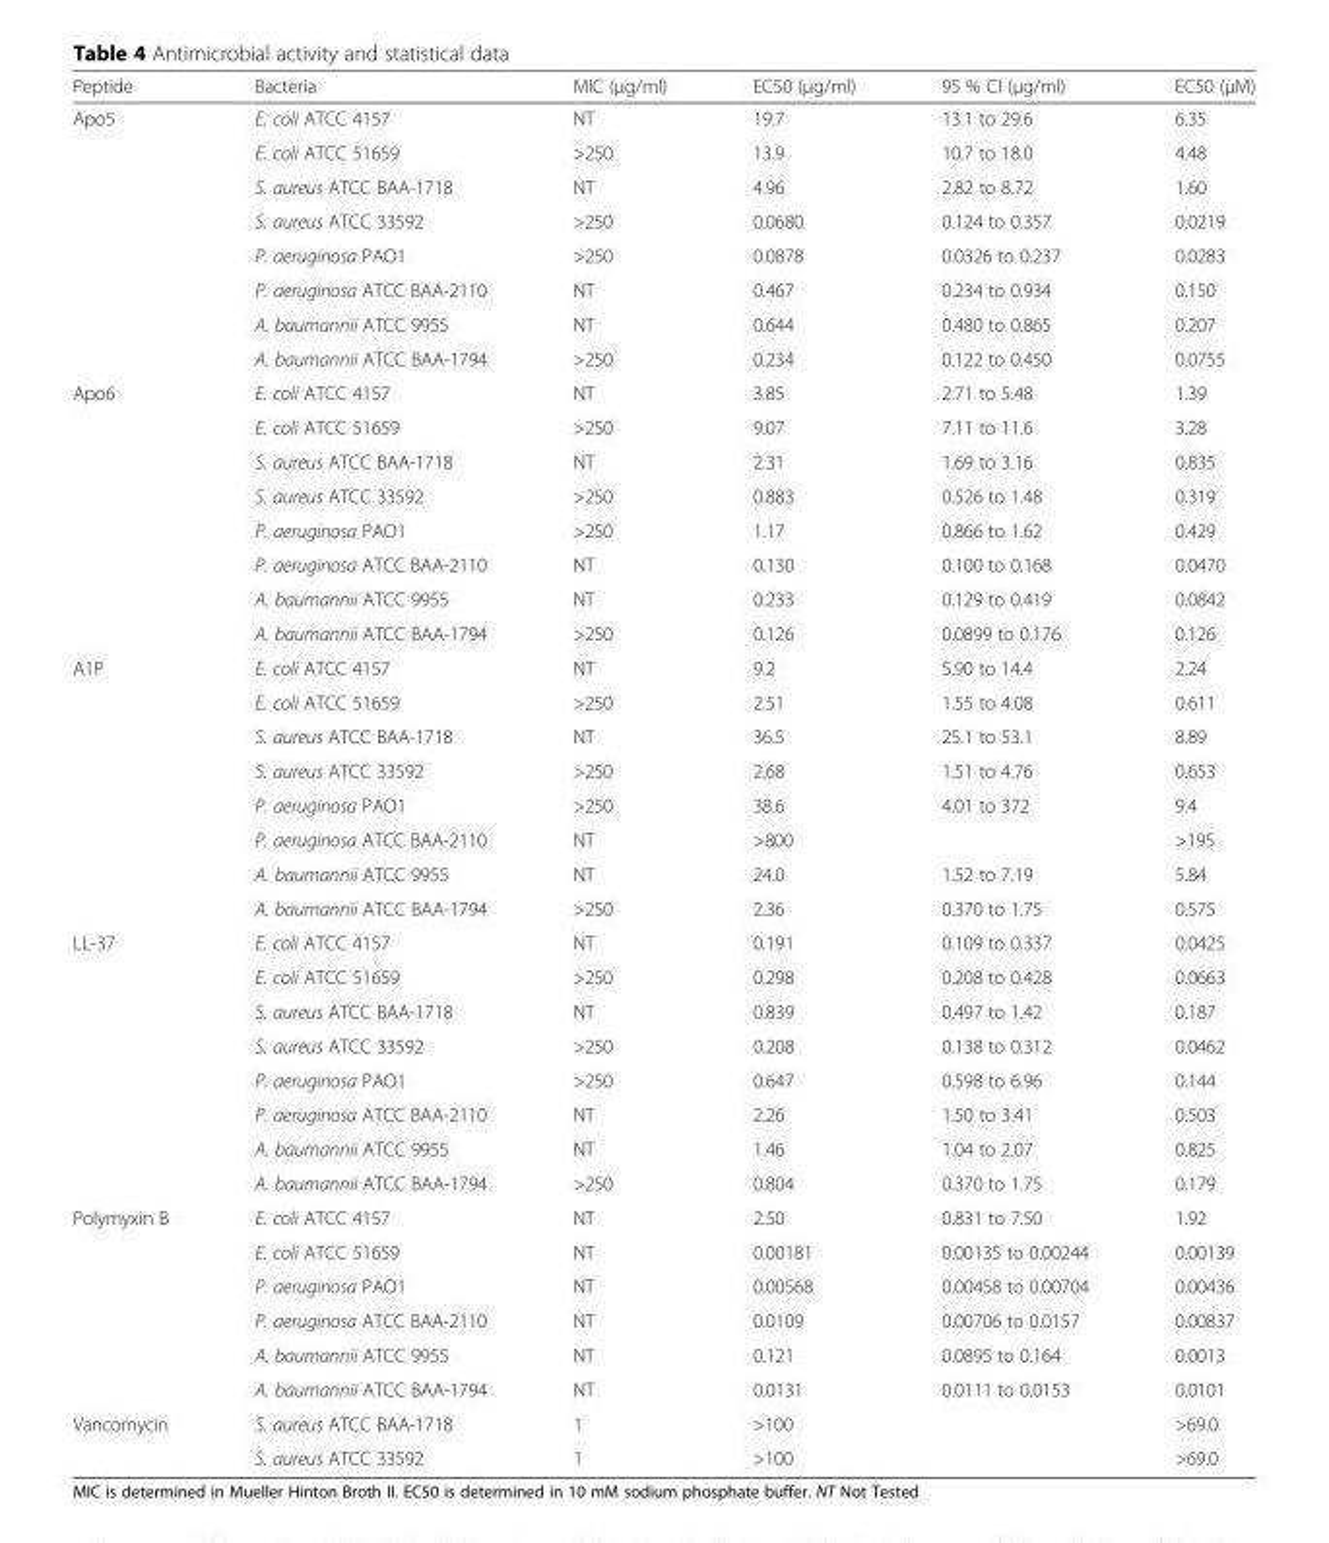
<table><thead><tr><td>Peptide</td><td>Bacteria</td><td>MIC (μg/ml)</td><td>EC50 (μg/ml)</td><td>95 % CI (μg/ml)</td><td>EC50 (μM)</td></tr></thead><tbody><tr><td rowspan="8">Apo5</td><td>E. coli ATCC 4157</td><td>NT</td><td>19.7</td><td>13.1 to 29.6</td><td>6.35</td></tr><tr><td>E. coli ATCC 51659</td><td>&gt;250</td><td>13.9</td><td>10.7 to 18.0</td><td>4.48</td></tr><tr><td>S. aureus ATCC BAA-1718</td><td>NT</td><td>4.96</td><td>2.82 to 8.72</td><td>1.60</td></tr><tr><td>S. aureus ATCC 33592</td><td>&gt;250</td><td>0.0680</td><td>0.124 to 0.357</td><td>0.0219</td></tr><tr><td>P. aeruginosa PAO1</td><td>&gt;250</td><td>0.0878</td><td>0.0326 to 0.237</td><td>0.0283</td></tr><tr><td>P. aeruginosa ATCC BAA-2110</td><td>NT</td><td>0.467</td><td>0.234 to 0.934</td><td>0.150</td></tr><tr><td>A. baumannii ATCC 9955</td><td>NT</td><td>0.644</td><td>0.480 to 0.865</td><td>0.207</td></tr><tr><td>A. baumannii ATCC BAA-1794</td><td>&gt;250</td><td>0.234</td><td>0.122 to 0.450</td><td>0.0755</td></tr><tr><td rowspan="8">Apo6</td><td>E. coli ATCC 4157</td><td>NT</td><td>3.85</td><td>2.71 to 5.48</td><td>1.39</td></tr><tr><td>E. coli ATCC 51659</td><td>&gt;250</td><td>9.07</td><td>7.11 to 11.6</td><td>3.28</td></tr><tr><td>S. aureus ATCC BAA-1718</td><td>NT</td><td>2.31</td><td>1.69 to 3.16</td><td>0.835</td></tr><tr><td>S. aureus ATCC 33592</td><td>&gt;250</td><td>0.883</td><td>0.526 to 1.48</td><td>0.319</td></tr><tr><td>P. aeruginosa PAO1</td><td>&gt;250</td><td>1.17</td><td>0.866 to 1.62</td><td>0.429</td></tr><tr><td>P. aeruginosa ATCC BAA-2110</td><td>NT</td><td>0.130</td><td>0.100 to 0.168</td><td>0.0470</td></tr><tr><td>A. baumannii ATCC 9955</td><td>NT</td><td>0.233</td><td>0.129 to 0.419</td><td>0.0842</td></tr><tr><td>A. baumannii ATCC BAA-1794</td><td>&gt;250</td><td>0.126</td><td>0.0899 to 0.176</td><td>0.126</td></tr><tr><td rowspan="8">A1P</td><td>E. coli ATCC 4157</td><td>NT</td><td>9.2</td><td>5.90 to 14.4</td><td>2.24</td></tr><tr><td>E. coli ATCC 51659</td><td>&gt;250</td><td>2.51</td><td>1.55 to 4.08</td><td>0.611</td></tr><tr><td>S. aureus ATCC BAA-1718</td><td>NT</td><td>36.5</td><td>25.1 to 53.1</td><td>8.89</td></tr><tr><td>S. aureus ATCC 33592</td><td>&gt;250</td><td>2.68</td><td>1.51 to 4.76</td><td>0.653</td></tr><tr><td>P. aeruginosa PAO1</td><td>&gt;250</td><td>38.6</td><td>4.01 to 372</td><td>9.4</td></tr><tr><td>P. aeruginosa ATCC BAA-2110</td><td>NT</td><td>&gt;800</td><td></td><td>&gt;195</td></tr><tr><td>A. baumannii ATCC 9955</td><td>NT</td><td>24.0</td><td>1.52 to 7.19</td><td>5.84</td></tr><tr><td>A. baumannii ATCC BAA-1794</td><td>&gt;250</td><td>2.36</td><td>0.370 to 1.75</td><td>0.575</td></tr><tr><td rowspan="8">LL-37</td><td>E. coli ATCC 4157</td><td>NT</td><td>0.191</td><td>0.109 to 0.337</td><td>0.0425</td></tr><tr><td>E. coli ATCC 51659</td><td>&gt;250</td><td>0.298</td><td>0.208 to 0.428</td><td>0.0663</td></tr><tr><td>S. aureus ATCC BAA-1718</td><td>NT</td><td>0.839</td><td>0.497 to 1.42</td><td>0.187</td></tr><tr><td>S. aureus ATCC 33592</td><td>&gt;250</td><td>0.208</td><td>0.138 to 0.312</td><td>0.0462</td></tr><tr><td>P. aeruginosa PAO1</td><td>&gt;250</td><td>0.647</td><td>0.598 to 6.96</td><td>0.144</td></tr><tr><td>P. aeruginosa ATCC BAA-2110</td><td>NT</td><td>2.26</td><td>1.50 to 3.41</td><td>0.503</td></tr><tr><td>A. baumannii ATCC 9955</td><td>NT</td><td>1.46</td><td>1.04 to 2.07</td><td>0.825</td></tr><tr><td>A. baumannii ATCC BAA-1794</td><td>&gt;250</td><td>0.804</td><td>0.370 to 1.75</td><td>0.179</td></tr><tr><td rowspan="6">Polymyxin B</td><td>E. coli ATCC 4157</td><td>NT</td><td>2.50</td><td>0.831 to 7.50</td><td>1.92</td></tr><tr><td>E. coli ATCC 51659</td><td>NT</td><td>0.00181</td><td>0.00135 to 0.00244</td><td>0.00139</td></tr><tr><td>P. aeruginosa PAO1</td><td>NT</td><td>0.00568</td><td>0.00458 to 0.00704</td><td>0.00436</td></tr><tr><td>P. aeruginosa ATCC BAA-2110</td><td>NT</td><td>0.0109</td><td>0.00706 to 0.0157</td><td>0.00837</td></tr><tr><td>A. baumannii ATCC 9955</td><td>NT</td><td>0.121</td><td>0.0895 to 0.164</td><td>0.0013</td></tr><tr><td>A. baumannii ATCC BAA-1794</td><td>NT</td><td>0.0131</td><td>0.0111 to 0.0153</td><td>0.0101</td></tr><tr><td rowspan="2">Vancomycin</td><td>S. aureus ATCC BAA-1718</td><td>1</td><td>&gt;100</td><td></td><td>&gt;69.0</td></tr><tr><td>S. aureus ATCC 33592</td><td>1</td><td>&gt;100</td><td></td><td>&gt;69.0</td></tr></tbody></table>